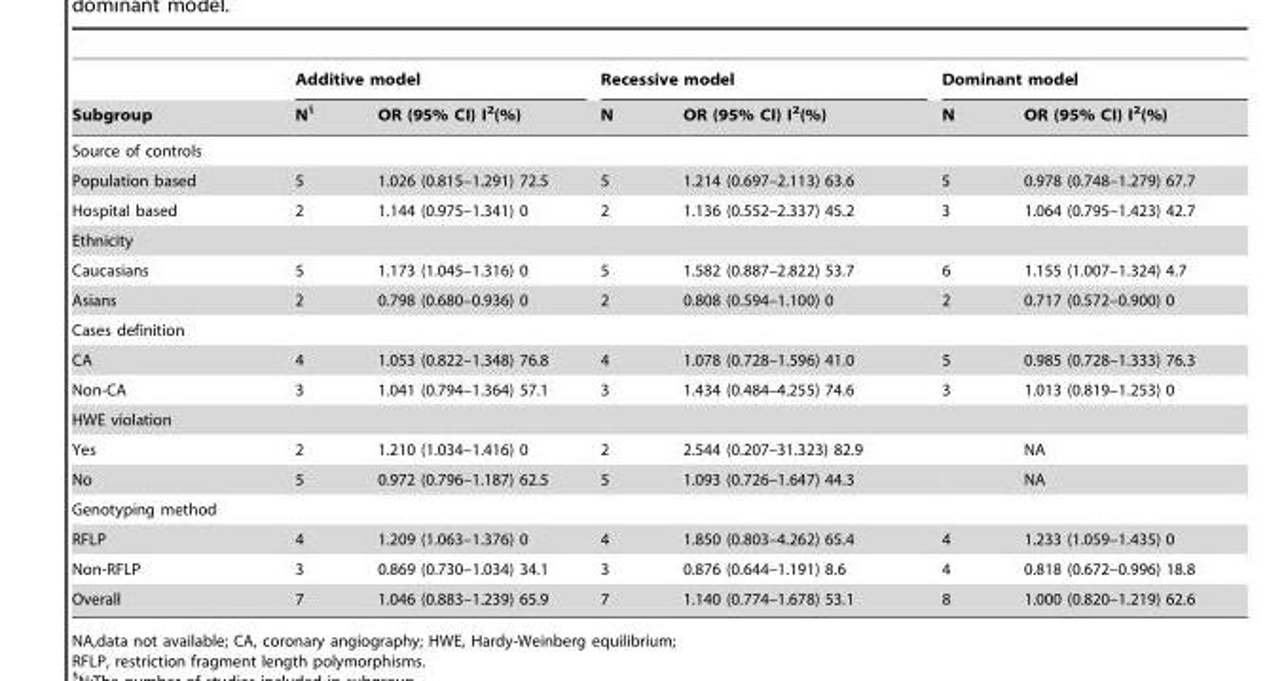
<table><thead><tr><td rowspan="2">Subgroup</td><td colspan="2">Additive model</td><td colspan="2">Recessive model</td><td colspan="2">Dominant model</td></tr><tr><td>N§</td><td>OR (95% CI) I<sup>2</sup>(%)</td><td>N</td><td>OR (95% CI) I<sup>2</sup>(%)</td><td>N</td><td>OR (95% CI) I<sup>2</sup>(%)</td></tr></thead><tbody><tr><td colspan="7">Source of controls</td></tr><tr><td>Population based</td><td>5</td><td>1.026 (0.815–1.291) 72.5</td><td>5</td><td>1.214 (0.697–2.113) 63.6</td><td>5</td><td>0.978 (0.748–1.279) 67.7</td></tr><tr><td>Hospital based</td><td>2</td><td>1.144 (0.975–1.341) 0</td><td>2</td><td>1.136 (0.552–2.337) 45.2</td><td>3</td><td>1.064 (0.795–1.423) 42.7</td></tr><tr><td colspan="7">Ethnicity</td></tr><tr><td>Caucasians</td><td>5</td><td>1.173 (1.045–1.316) 0</td><td>5</td><td>1.582 (0.887–2.822) 53.7</td><td>6</td><td>1.155 (1.007–1.324) 4.7</td></tr><tr><td>Asians</td><td>2</td><td>0.798 (0.680–0.936) 0</td><td>2</td><td>0.808 (0.594–1.100) 0</td><td>2</td><td>0.717 (0.572–0.900) 0</td></tr><tr><td colspan="7">Cases definition</td></tr><tr><td>CA</td><td>4</td><td>1.053 (0.822–1.348) 76.8</td><td>4</td><td>1.078 (0.728–1.596) 41.0</td><td>5</td><td>0.985 (0.728–1.333) 76.3</td></tr><tr><td>Non-CA</td><td>3</td><td>1.041 (0.794–1.364) 57.1</td><td>3</td><td>1.434 (0.484–4.255) 74.6</td><td>3</td><td>1.013 (0.819–1.253) 0</td></tr><tr><td colspan="7">HWE violation</td></tr><tr><td>Yes</td><td>2</td><td>1.210 (1.034–1.416) 0</td><td>2</td><td>2.544 (0.207–31.323) 82.9</td><td></td><td>NA</td></tr><tr><td>No</td><td>5</td><td>0.972 (0.796–1.187) 62.5</td><td>5</td><td>1.093 (0.726–1.647) 44.3</td><td></td><td>NA</td></tr><tr><td colspan="7">Genotyping method</td></tr><tr><td>RFLP</td><td>4</td><td>1.209 (1.063–1.376) 0</td><td>4</td><td>1.850 (0.803–4.262) 65.4</td><td>4</td><td>1.233 (1.059–1.435) 0</td></tr><tr><td>Non-RFLP</td><td>3</td><td>0.869 (0.730–1.034) 34.1</td><td>3</td><td>0.876 (0.644–1.191) 8.6</td><td>4</td><td>0.818 (0.672–0.996) 18.8</td></tr><tr><td>Overall</td><td>7</td><td>1.046 (0.883–1.239) 65.9</td><td>7</td><td>1.140 (0.774–1.678) 53.1</td><td>8</td><td>1.000 (0.820–1.219) 62.6</td></tr></tbody></table>